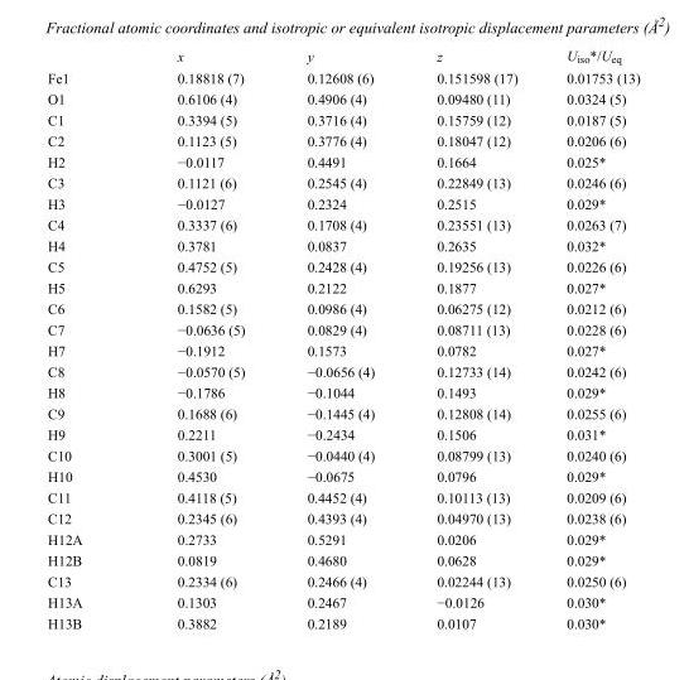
<table><thead><tr><td></td><td>x</td><td>y</td><td>z</td><td>U<sub>iso</sub>*/U<sub>eq</sub></td></tr></thead><tbody><tr><td>Fe1</td><td>0.18818 (7)</td><td>0.12608 (6)</td><td>0.151598 (17)</td><td>0.01753 (13)</td></tr><tr><td>O1</td><td>0.6106 (4)</td><td>0.4906 (4)</td><td>0.09480 (11)</td><td>0.0324 (5)</td></tr><tr><td>C1</td><td>0.3394 (5)</td><td>0.3716 (4)</td><td>0.15759 (12)</td><td>0.0187 (5)</td></tr><tr><td>C2</td><td>0.1123 (5)</td><td>0.3776 (4)</td><td>0.18047 (12)</td><td>0.0206 (6)</td></tr><tr><td>H2</td><td>−0.0117</td><td>0.4491</td><td>0.1664</td><td>0.025*</td></tr><tr><td>C3</td><td>0.1121 (6)</td><td>0.2545 (4)</td><td>0.22849 (13)</td><td>0.0246 (6)</td></tr><tr><td>H3</td><td>−0.0127</td><td>0.2324</td><td>0.2515</td><td>0.029*</td></tr><tr><td>C4</td><td>0.3337 (6)</td><td>0.1708 (4)</td><td>0.23551 (13)</td><td>0.0263 (7)</td></tr><tr><td>H4</td><td>0.3781</td><td>0.0837</td><td>0.2635</td><td>0.032*</td></tr><tr><td>C5</td><td>0.4752 (5)</td><td>0.2428 (4)</td><td>0.19256 (13)</td><td>0.0226 (6)</td></tr><tr><td>H5</td><td>0.6293</td><td>0.2122</td><td>0.1877</td><td>0.027*</td></tr><tr><td>C6</td><td>0.1582 (5)</td><td>0.0986 (4)</td><td>0.06275 (12)</td><td>0.0212 (6)</td></tr><tr><td>C7</td><td>−0.0636 (5)</td><td>0.0829 (4)</td><td>0.08711 (13)</td><td>0.0228 (6)</td></tr><tr><td>H7</td><td>−0.1912</td><td>0.1573</td><td>0.0782</td><td>0.027*</td></tr><tr><td>C8</td><td>−0.0570 (5)</td><td>−0.0656 (4)</td><td>0.12733 (14)</td><td>0.0242 (6)</td></tr><tr><td>H8</td><td>−0.1786</td><td>−0.1044</td><td>0.1493</td><td>0.029*</td></tr><tr><td>C9</td><td>0.1688 (6)</td><td>−0.1445 (4)</td><td>0.12808 (14)</td><td>0.0255 (6)</td></tr><tr><td>H9</td><td>0.2211</td><td>−0.2434</td><td>0.1506</td><td>0.031*</td></tr><tr><td>C10</td><td>0.3001 (5)</td><td>−0.0440 (4)</td><td>0.08799 (13)</td><td>0.0240 (6)</td></tr><tr><td>H10</td><td>0.4530</td><td>−0.0675</td><td>0.0796</td><td>0.029*</td></tr><tr><td>C11</td><td>0.4118 (5)</td><td>0.4452 (4)</td><td>0.10113 (13)</td><td>0.0209 (6)</td></tr><tr><td>C12</td><td>0.2345 (6)</td><td>0.4393 (4)</td><td>0.04970 (13)</td><td>0.0238 (6)</td></tr><tr><td>H12A</td><td>0.2733</td><td>0.5291</td><td>0.0206</td><td>0.029*</td></tr><tr><td>H12B</td><td>0.0819</td><td>0.4680</td><td>0.0628</td><td>0.029*</td></tr><tr><td>C13</td><td>0.2334 (6)</td><td>0.2466 (4)</td><td>0.02244 (13)</td><td>0.0250 (6)</td></tr><tr><td>H13A</td><td>0.1303</td><td>0.2467</td><td>−0.0126</td><td>0.030*</td></tr><tr><td>H13B</td><td>0.3882</td><td>0.2189</td><td>0.0107</td><td>0.030*</td></tr></tbody></table>